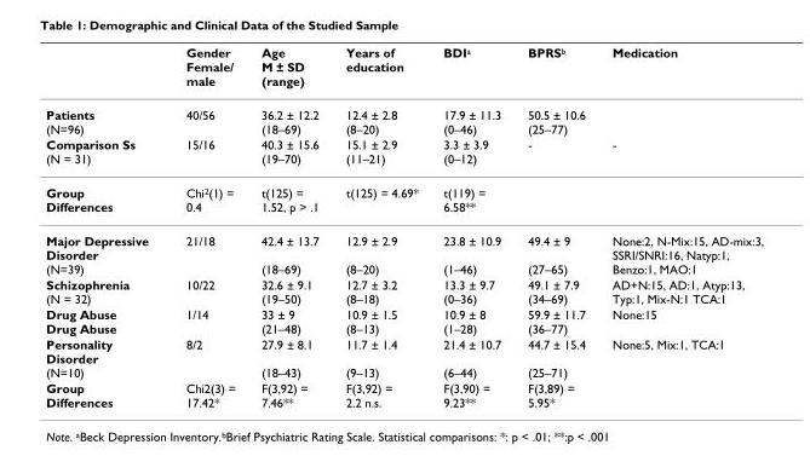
<table><thead><tr><td></td><td>Gender Female/ male</td><td>Age M ± SD (range)</td><td>Years of education</td><td>BDI<sup>a</sup></td><td>BPRS<sup>b</sup></td><td>Medication</td></tr></thead><tbody><tr><td>Patients (N=96)</td><td>40/56</td><td>36.2 ± 12.2 (18–69)</td><td>12.4 ± 2.8 (8–20)</td><td>17.9 ± 11.3 (0–46)</td><td>50.5 ± 10.6 (25–77)</td><td></td></tr><tr><td>Comparison Ss (N = 31)</td><td>15/16</td><td>40.3 ± 15.6 (19–70)</td><td>15.1 ± 2.9 (11–21)</td><td>3.3 ± 3.9 (0–12)</td><td>-</td><td>-</td></tr><tr><td>Group Differences</td><td>Chi<sup>2</sup>(1) = 0.4</td><td>t(125) = 1.52, p &gt; .1</td><td>t(125) = 4.69*</td><td>t(119) = 6.58**</td><td></td><td></td></tr><tr><td>Major Depressive Disorder (N=39)</td><td>21/18</td><td>42.4 ± 13.7 (18–69)</td><td>12.9 ± 2.9 (8–20)</td><td>23.8 ± 10.9 (1–46)</td><td>49.4 ± 9 (27–65)</td><td>None:2, N-Mix:15, AD-mix:3, SSRI/SNRI:16, Natyp:1, Benzo:1, MAO:1</td></tr><tr><td>Schizophrenia (N = 32)</td><td>10/22</td><td>32.6 ± 9.1 (19–50)</td><td>12.7 ± 3.2 (8–18)</td><td>13.3 ± 9.7 (0–36)</td><td>49.1 ± 7.9 (34–69)</td><td>AD+N:15, AD:1, Atyp:13, Typ:1, Mix-N:1 TCA:1</td></tr><tr><td>Drug Abuse Drug Abuse</td><td>1/14</td><td>33 ± 9 (21–48)</td><td>10.9 ± 1.5 (8–13)</td><td>10.9 ± 8 (1–28)</td><td>59.9 ± 11.7 (36–77)</td><td>None:15</td></tr><tr><td>Personality Disorder (N=10)</td><td>8/2</td><td>27.9 ± 8.1 (18–43)</td><td>11.7 ± 1.4 (9–13)</td><td>21.4 ± 10.7 (6–44)</td><td>44.7 ± 15.4 (25–71)</td><td>None:5, Mix:1, TCA:1</td></tr><tr><td>Group Differences</td><td>Chi2(3) = 17.42*</td><td>F(3,92) = 7.46**</td><td>F(3,92) = 2.2 n.s.</td><td>F(3,90) = 9.23**</td><td>F(3,89) = 5.95*</td><td></td></tr></tbody></table>